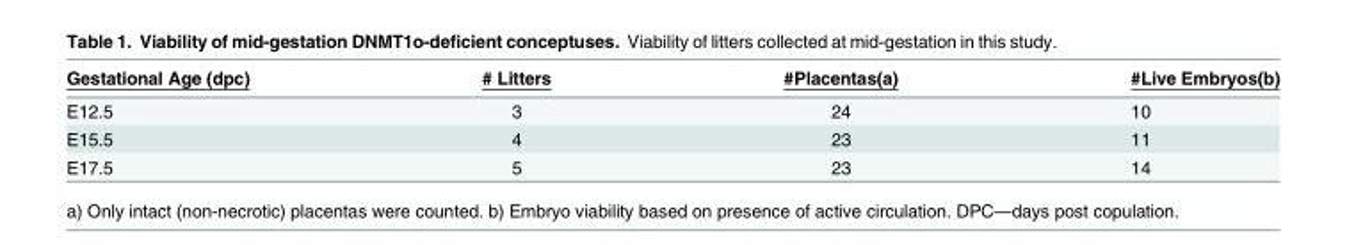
<table><thead><tr><td>Gestational Age (dpc)</td><td># Litters</td><td>#Placentas(a)</td><td>#Live Embryos(b)</td></tr></thead><tbody><tr><td>E12.5</td><td>3</td><td>24</td><td>10</td></tr><tr><td>E15.5</td><td>4</td><td>23</td><td>11</td></tr><tr><td>E17.5</td><td>5</td><td>23</td><td>14</td></tr></tbody></table>